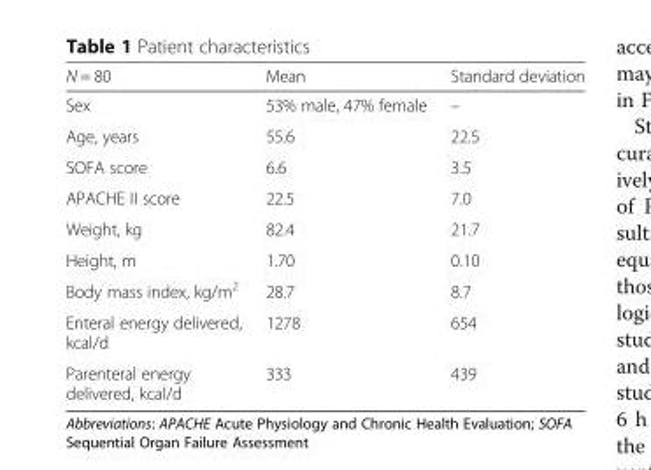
<table><thead><tr><td>N = 80</td><td>Mean</td><td>Standard deviation</td></tr></thead><tbody><tr><td>Sex</td><td>53% male, 47% female</td><td>–</td></tr><tr><td>Age, years</td><td>55.6</td><td>22.5</td></tr><tr><td>SOFA score</td><td>6.6</td><td>3.5</td></tr><tr><td>APACHE II score</td><td>22.5</td><td>7.0</td></tr><tr><td>Weight, kg</td><td>82.4</td><td>21.7</td></tr><tr><td>Height, m</td><td>1.70</td><td>0.10</td></tr><tr><td>Body mass index, kg/m<sup>2</sup></td><td>28.7</td><td>8.7</td></tr><tr><td>Enteral energy delivered, kcal/d</td><td>1278</td><td>654</td></tr><tr><td>Parenteral energy delivered, kcal/d</td><td>333</td><td>439</td></tr></tbody></table>